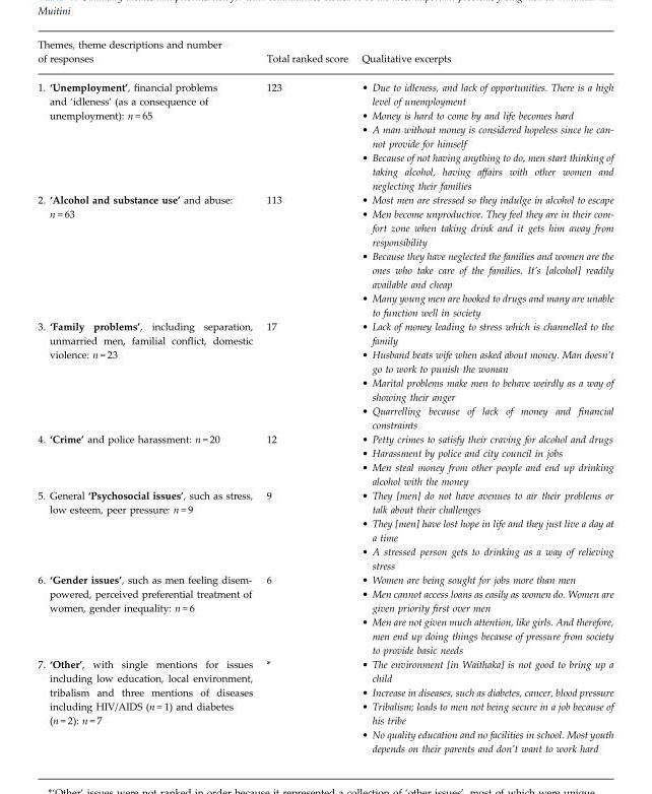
<table><thead><tr><td>Themes, theme descriptions and number of responses</td><td>Total ranked score</td><td>Qualitative excerpts</td></tr></thead><tbody><tr><td>1. ‘Unemployment’, financial problems and ‘idleness’ (as a consequence of unemployment): n = 65</td><td>123</td><td>• Due to idleness, and lack of opportunities. There is a high level of unemployment • Money is hard to come by and life becomes hard • A man without money is considered hopeless since he can- not provide for himself • Because of not having anything to do, men start thinking of taking alcohol, having affairs with other women and neglecting their families</td></tr><tr><td>2. ‘Alcohol and substance use’ and abuse: n = 63</td><td>113</td><td>• Most men are stressed so they indulge in alcohol to escape • Men become unproductive. They feel they are in their com- fort zone when taking drink and it gets him away from responsibility • Because they have neglected the families and women are the ones who take care of the families. It’s [alcohol] readily available and cheap • Many young men are hooked to drugs and many are unable to function well in society</td></tr><tr><td>3. ‘Family problems’, including separation, unmarried men, familial conflict, domestic violence: n = 23</td><td>17</td><td>• Lack of money leading to stress which is channelled to the family • Husband beats wife when asked about money. Man doesn’t go to work to punish the woman • Marital problems make men to behave weirdly as a way of showing their anger • Quarrelling because of lack of money and financial constraints</td></tr><tr><td>4. ‘Crime’ and police harassment: n = 20</td><td>12</td><td>• Petty crimes to satisfy their craving for alcohol and drugs • Harassment by police and city council in jobs • Men steal money from other people and end up drinking alcohol with the money</td></tr><tr><td>5. General ‘Psychosocial issues’, such as stress, low esteem, peer pressure: n = 9</td><td>9</td><td>• They [men] do not have avenues to air their problems or talk about their challenges • They [men] have lost hope in life and they just live a day at a time • A stressed person gets to drinking as a way of relieving stress</td></tr><tr><td>6. ‘Gender issues’, such as men feeling disem- powered, perceived preferential treatment of women, gender inequality: n = 6</td><td>6</td><td>• Women are being sought for jobs more than men • Men cannot access loans as easily as women do. Women are given priority first over men • Men are not given much attention, like girls. And therefore, men end up doing things because of pressure from society to provide basic needs</td></tr><tr><td>7. ‘Other’, with single mentions for issues including low education, local environment, tribalism and three mentions of diseases including HIV/AIDS (n = 1) and diabetes (n = 2): n = 7</td><td>*</td><td>• The environment [in Waithaka] is not good to bring up a child • Increase in diseases, such as diabetes, cancer, blood pressure • Tribalism; leads to men not being secure in a job because of his tribe • No quality education and no facilities in school. Most youth depends on their parents and don’t want to work hard</td></tr></tbody></table>